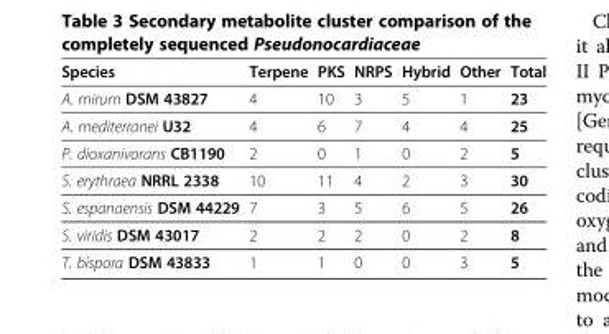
<table><thead><tr><td>Species</td><td>Terpene</td><td>PKS</td><td>NRPS</td><td>Hybrid</td><td>Other</td><td>Total</td></tr></thead><tbody><tr><td>A. mirum DSM 43827</td><td>4</td><td>10</td><td>3</td><td>5</td><td>1</td><td>23</td></tr><tr><td>A. mediterranei U32</td><td>4</td><td>6</td><td>7</td><td>4</td><td>4</td><td>25</td></tr><tr><td>P. dioxanivorans CB1190</td><td>2</td><td>0</td><td>1</td><td>0</td><td>2</td><td>5</td></tr><tr><td>S. erythraea NRRL 2338</td><td>10</td><td>11</td><td>4</td><td>2</td><td>3</td><td>30</td></tr><tr><td>S. espanaensis DSM 44229</td><td>7</td><td>3</td><td>5</td><td>6</td><td>5</td><td>26</td></tr><tr><td>S. viridis DSM 43017</td><td>2</td><td>2</td><td>2</td><td>0</td><td>2</td><td>8</td></tr><tr><td>T. bispora DSM 43833</td><td>1</td><td>1</td><td>0</td><td>0</td><td>3</td><td>5</td></tr></tbody></table>